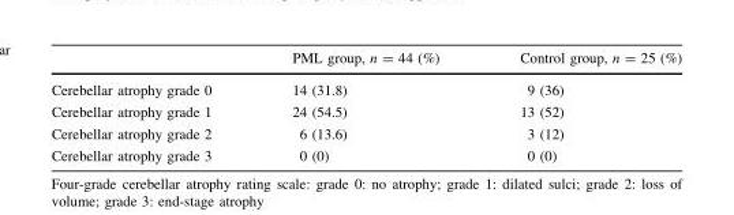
<table><thead><tr><td></td><td>PML group, n = 44 (%)</td><td>Control group, n = 25 (%)</td></tr></thead><tbody><tr><td>Cerebellar atrophy grade 0</td><td>14 (31.8)</td><td>9 (36)</td></tr><tr><td>Cerebellar atrophy grade 1</td><td>24 (54.5)</td><td>13 (52)</td></tr><tr><td>Cerebellar atrophy grade 2</td><td>6 (13.6)</td><td>3 (12)</td></tr><tr><td>Cerebellar atrophy grade 3</td><td>0 (0)</td><td>0 (0)</td></tr></tbody></table>